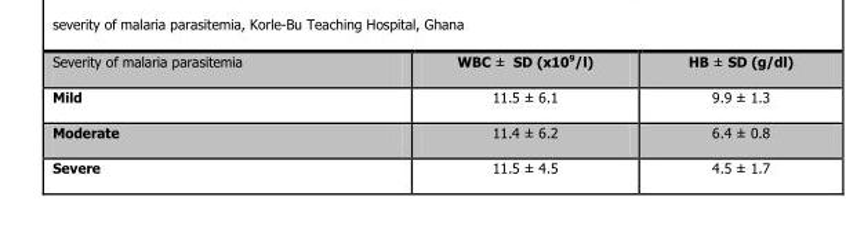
<table><thead><tr><td>Severity of malaria parasitemia</td><td>WBC ± SD (x10<sup>9</sup>/l)</td><td>HB ± SD (g/dl)</td></tr></thead><tbody><tr><td>Mild</td><td>11.5 ± 6.1</td><td>9.9 ± 1.3</td></tr><tr><td>Moderate</td><td>11.4 ± 6.2</td><td>6.4 ± 0.8</td></tr><tr><td>Severe</td><td>11.5 ± 4.5</td><td>4.5 ± 1.7</td></tr></tbody></table>